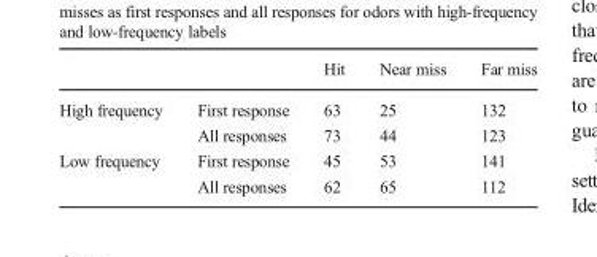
<table><thead><tr><td></td><td></td><td>Hit</td><td>Near miss</td><td>Far miss</td></tr></thead><tbody><tr><td rowspan="2">High frequency</td><td>First response</td><td>63</td><td>25</td><td>132</td></tr><tr><td>All responses</td><td>73</td><td>44</td><td>123</td></tr><tr><td rowspan="2">Low frequency</td><td>First response</td><td>45</td><td>53</td><td>141</td></tr><tr><td>All responses</td><td>62</td><td>65</td><td>112</td></tr></tbody></table>